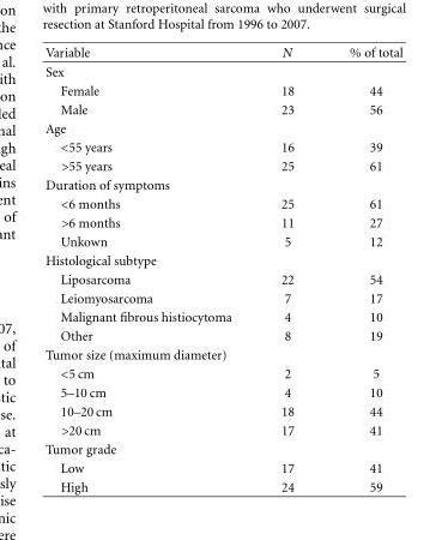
<table><thead><tr><td>Variable</td><td>N</td><td>% of total</td></tr></thead><tbody><tr><td colspan="3">Sex</td></tr><tr><td>Female</td><td>18</td><td>44</td></tr><tr><td>Male</td><td>23</td><td>56</td></tr><tr><td colspan="3">Age</td></tr><tr><td>&lt;55 years</td><td>16</td><td>39</td></tr><tr><td>&gt;55 years</td><td>25</td><td>61</td></tr><tr><td colspan="3">Duration of symptoms</td></tr><tr><td>&lt;6 months</td><td>25</td><td>61</td></tr><tr><td>&gt;6 months</td><td>11</td><td>27</td></tr><tr><td>Unkown</td><td>5</td><td>12</td></tr><tr><td colspan="3">Histological subtype</td></tr><tr><td>Liposarcoma</td><td>22</td><td>54</td></tr><tr><td>Leiomyosarcoma</td><td>7</td><td>17</td></tr><tr><td>Malignant fibrous histiocytoma</td><td>4</td><td>10</td></tr><tr><td>Other</td><td>8</td><td>19</td></tr><tr><td colspan="3">Tumor size (maximum diameter)</td></tr><tr><td>&lt;5 cm</td><td>2</td><td>5</td></tr><tr><td>5–10 cm</td><td>4</td><td>10</td></tr><tr><td>10–20 cm</td><td>18</td><td>44</td></tr><tr><td>&gt;20 cm</td><td>17</td><td>41</td></tr><tr><td colspan="3">Tumor grade</td></tr><tr><td>Low</td><td>17</td><td>41</td></tr><tr><td>High</td><td>24</td><td>59</td></tr></tbody></table>